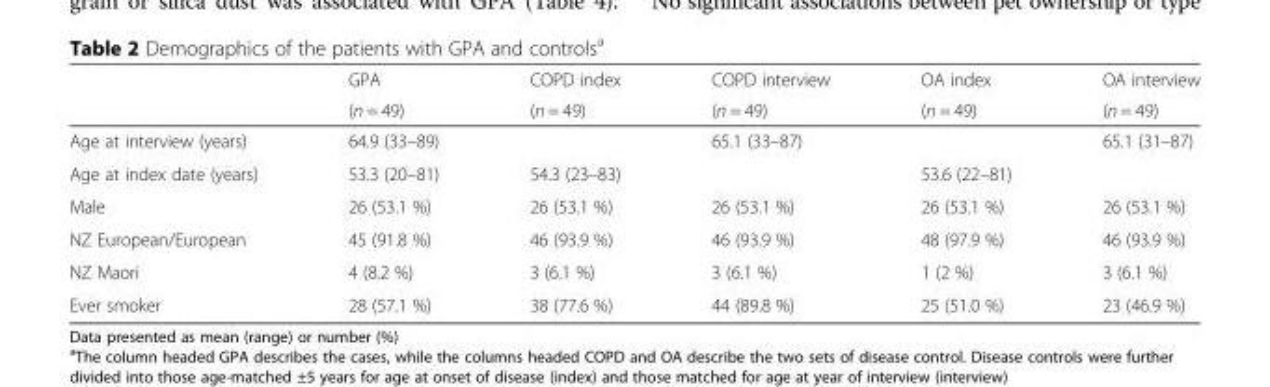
<table><thead><tr><td rowspan="2"></td><td rowspan="2">GPA (n = 49)</td><td rowspan="2">COPD index (n = 49)</td><td rowspan="2">COPD interview (n = 49)</td><td rowspan="2">OA index (n = 49)</td><td rowspan="2">OA interview (n = 49)</td></tr><tr></tr></thead><tbody><tr><td>Age at interview (years)</td><td>64.9 (33–89)</td><td></td><td>65.1 (33–87)</td><td></td><td>65.1 (31–87)</td></tr><tr><td>Age at index date (years)</td><td>53.3 (20–81)</td><td>54.3 (23–83)</td><td></td><td>53.6 (22–81)</td><td></td></tr><tr><td>Male</td><td>26 (53.1 %)</td><td>26 (53.1 %)</td><td>26 (53.1 %)</td><td>26 (53.1 %)</td><td>26 (53.1 %)</td></tr><tr><td>NZ European/European</td><td>45 (91.8 %)</td><td>46 (93.9 %)</td><td>46 (93.9 %)</td><td>48 (97.9 %)</td><td>46 (93.9 %)</td></tr><tr><td>NZ Maori</td><td>4 (8.2 %)</td><td>3 (6.1 %)</td><td>3 (6.1 %)</td><td>1 (2 %)</td><td>3 (6.1 %)</td></tr><tr><td>Ever smoker</td><td>28 (57.1 %)</td><td>38 (77.6 %)</td><td>44 (89.8 %)</td><td>25 (51.0 %)</td><td>23 (46.9 %)</td></tr></tbody></table>